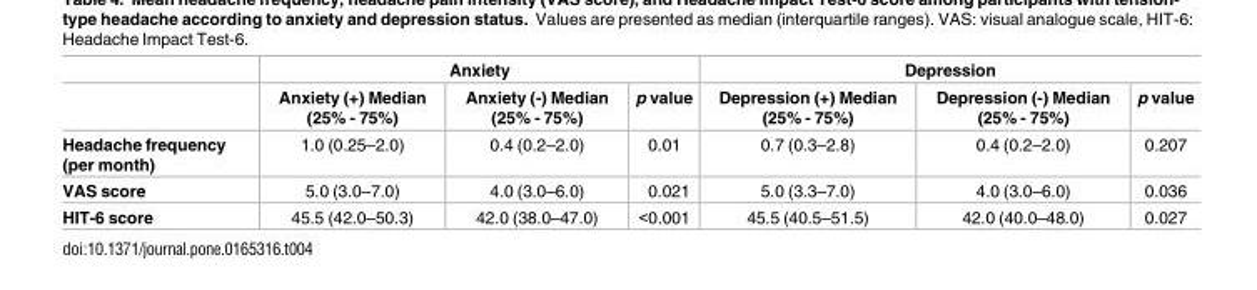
<table><thead><tr><td rowspan="2"></td><td colspan="3">Anxiety</td><td colspan="3">Depression</td></tr><tr><td>Anxiety (+) Median (25% - 75%)</td><td>Anxiety (-) Median (25% - 75%)</td><td>p value</td><td>Depression (+) Median (25% - 75%)</td><td>Depression (-) Median (25% - 75%)</td><td>p value</td></tr></thead><tbody><tr><td>Headache frequency (per month)</td><td>1.0 (0.25–2.0)</td><td>0.4 (0.2–2.0)</td><td>0.01</td><td>0.7 (0.3–2.8)</td><td>0.4 (0.2–2.0)</td><td>0.207</td></tr><tr><td>VAS score</td><td>5.0 (3.0–7.0)</td><td>4.0 (3.0–6.0)</td><td>0.021</td><td>5.0 (3.3–7.0)</td><td>4.0 (3.0–6.0)</td><td>0.036</td></tr><tr><td>HIT-6 score</td><td>45.5 (42.0–50.3)</td><td>42.0 (38.0–47.0)</td><td>&lt;0.001</td><td>45.5 (40.5–51.5)</td><td>42.0 (40.0–48.0)</td><td>0.027</td></tr></tbody></table>